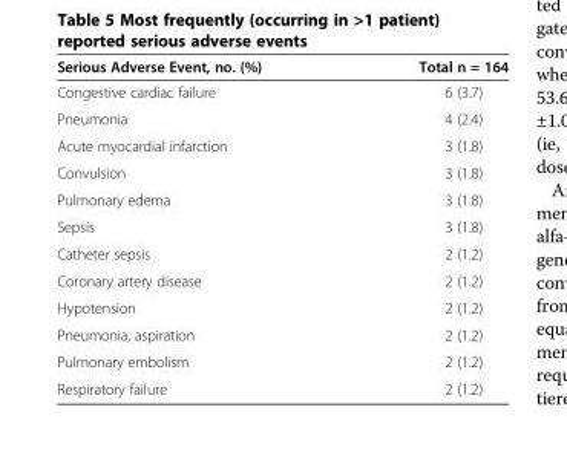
<table><thead><tr><td>Serious Adverse Event, no. (%)</td><td>Total n = 164</td></tr></thead><tbody><tr><td>Congestive cardiac failure</td><td>6 (3.7)</td></tr><tr><td>Pneumonia</td><td>4 (2.4)</td></tr><tr><td>Acute myocardial infarction</td><td>3 (1.8)</td></tr><tr><td>Convulsion</td><td>3 (1.8)</td></tr><tr><td>Pulmonary edema</td><td>3 (1.8)</td></tr><tr><td>Sepsis</td><td>3 (1.8)</td></tr><tr><td>Catheter sepsis</td><td>2 (1.2)</td></tr><tr><td>Coronary artery disease</td><td>2 (1.2)</td></tr><tr><td>Hypotension</td><td>2 (1.2)</td></tr><tr><td>Pneumonia, aspiration</td><td>2 (1.2)</td></tr><tr><td>Pulmonary embolism</td><td>2 (1.2)</td></tr><tr><td>Respiratory failure</td><td>2 (1.2)</td></tr></tbody></table>